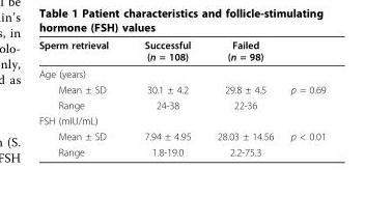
<table><thead><tr><td>Sperm retrieval</td><td>Successful (n = 108)</td><td>Failed (n = 98)</td><td></td></tr></thead><tbody><tr><td colspan="4">Age (years)</td></tr><tr><td>Mean ± SD</td><td>30.1 ± 4.2</td><td>29.8 ± 4.5</td><td>p = 0.69</td></tr><tr><td>Range</td><td>24-38</td><td>22-36</td><td></td></tr><tr><td colspan="4">FSH (mIU/mL)</td></tr><tr><td>Mean ± SD</td><td>7.94 ± 4.95</td><td>28.03 ± 14.56</td><td>p &lt; 0.01</td></tr><tr><td>Range</td><td>1.8-19.0</td><td>2.2-75.3</td><td></td></tr></tbody></table>